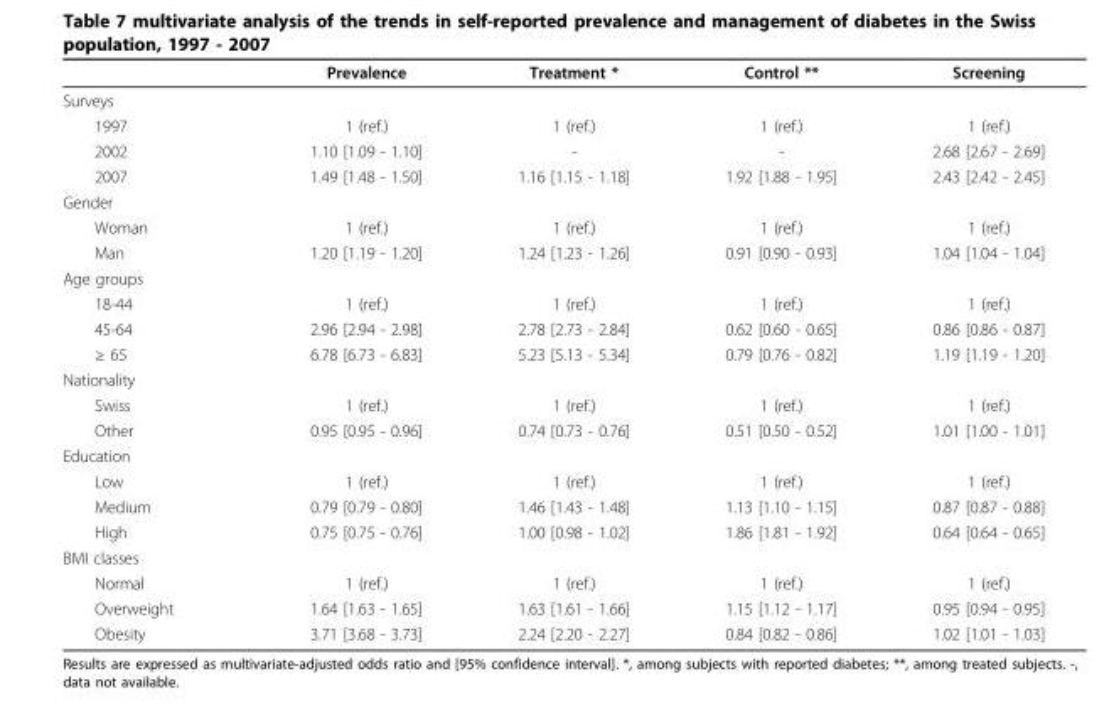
<table><thead><tr><td></td><td>Prevalence</td><td>Treatment *</td><td>Control **</td><td>Screening</td></tr></thead><tbody><tr><td colspan="5">Surveys</td></tr><tr><td>1997</td><td>1 (ref.)</td><td>1 (ref.)</td><td>1 (ref.)</td><td>1 (ref.)</td></tr><tr><td>2002</td><td>1.10 [1.09 - 1.10]</td><td>-</td><td>-</td><td>2.68 [2.67 - 2.69]</td></tr><tr><td>2007</td><td>1.49 [1.48 - 1.50]</td><td>1.16 [1.15 - 1.18]</td><td>1.92 [1.88 - 1.95]</td><td>2.43 [2.42 - 2.45]</td></tr><tr><td colspan="5">Gender</td></tr><tr><td>Woman</td><td>1 (ref.)</td><td>1 (ref.)</td><td>1 (ref.)</td><td>1 (ref.)</td></tr><tr><td>Man</td><td>1.20 [1.19 - 1.20]</td><td>1.24 [1.23 - 1.26]</td><td>0.91 [0.90 - 0.93]</td><td>1.04 [1.04 - 1.04]</td></tr><tr><td colspan="5">Age groups</td></tr><tr><td>18-44</td><td>1 (ref.)</td><td>1 (ref.)</td><td>1 (ref.)</td><td>1 (ref.)</td></tr><tr><td>45-64</td><td>2.96 [2.94 - 2.98]</td><td>2.78 [2.73 - 2.84]</td><td>0.62 [0.60 - 0.65]</td><td>0.86 [0.86 - 0.87]</td></tr><tr><td>≥ 65</td><td>6.78 [6.73 - 6.83]</td><td>5.23 [5.13 - 5.34]</td><td>0.79 [0.76 - 0.82]</td><td>1.19 [1.19 - 1.20]</td></tr><tr><td colspan="5">Nationality</td></tr><tr><td>Swiss</td><td>1 (ref.)</td><td>1 (ref.)</td><td>1 (ref.)</td><td>1 (ref.)</td></tr><tr><td>Other</td><td>0.95 [0.95 - 0.96]</td><td>0.74 [0.73 - 0.76]</td><td>0.51 [0.50 - 0.52]</td><td>1.01 [1.00 - 1.01]</td></tr><tr><td colspan="5">Education</td></tr><tr><td>Low</td><td>1 (ref.)</td><td>1 (ref.)</td><td>1 (ref.)</td><td>1 (ref.)</td></tr><tr><td>Medium</td><td>0.79 [0.79 - 0.80]</td><td>1.46 [1.43 - 1.48]</td><td>1.13 [1.10 - 1.15]</td><td>0.87 [0.87 - 0.88]</td></tr><tr><td>High</td><td>0.75 [0.75 - 0.76]</td><td>1.00 [0.98 - 1.02]</td><td>1.86 [1.81 - 1.92]</td><td>0.64 [0.64 - 0.65]</td></tr><tr><td colspan="5">BMI classes</td></tr><tr><td>Normal</td><td>1 (ref.)</td><td>1 (ref.)</td><td>1 (ref.)</td><td>1 (ref.)</td></tr><tr><td>Overweight</td><td>1.64 [1.63 - 1.65]</td><td>1.63 [1.61 - 1.66]</td><td>1.15 [1.12 - 1.17]</td><td>0.95 [0.94 - 0.95]</td></tr><tr><td>Obesity</td><td>3.71 [3.68 - 3.73]</td><td>2.24 [2.20 - 2.27]</td><td>0.84 [0.82 - 0.86]</td><td>1.02 [1.01 - 1.03]</td></tr></tbody></table>